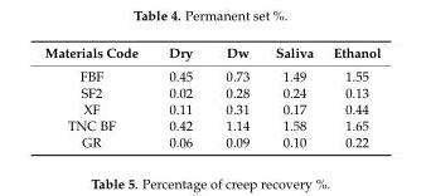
<table><thead><tr><td>Materials Code</td><td>Dry</td><td>Dw</td><td>Saliva</td><td>Ethanol</td></tr></thead><tbody><tr><td>FBF</td><td>0.45</td><td>0.73</td><td>1.49</td><td>1.55</td></tr><tr><td>SF2</td><td>0.02</td><td>0.28</td><td>0.24</td><td>0.13</td></tr><tr><td>XF</td><td>0.11</td><td>0.31</td><td>0.17</td><td>0.44</td></tr><tr><td>TNC BF</td><td>0.42</td><td>1.14</td><td>1.58</td><td>1.65</td></tr><tr><td>GR</td><td>0.06</td><td>0.09</td><td>0.10</td><td>0.22</td></tr></tbody></table>